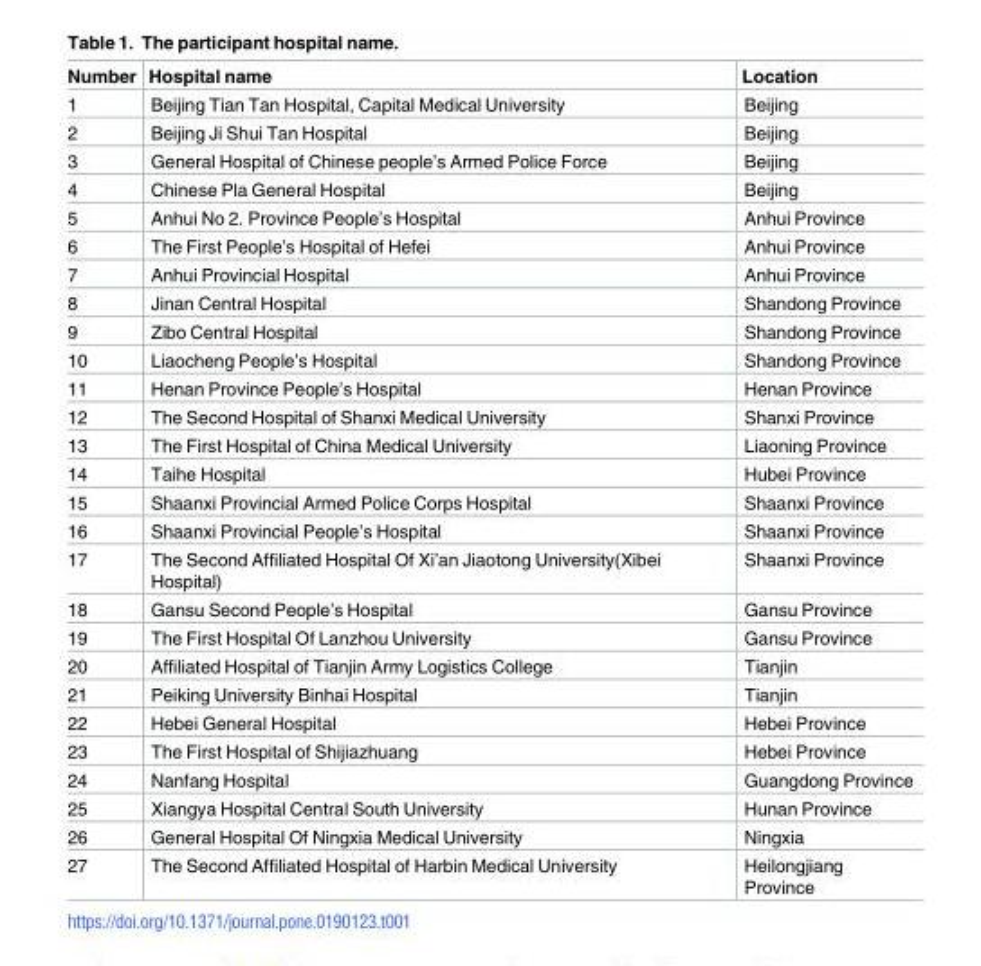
<table><thead><tr><td>Number</td><td>Hospital name</td><td>Location</td></tr></thead><tbody><tr><td>1</td><td>Beijing Tian Tan Hospital, Capital Medical University</td><td>Beijing</td></tr><tr><td>2</td><td>Beijing Ji Shui Tan Hospital</td><td>Beijing</td></tr><tr><td>3</td><td>General Hospital of Chinese people’s Armed Police Force</td><td>Beijing</td></tr><tr><td>4</td><td>Chinese Pla General Hospital</td><td>Beijing</td></tr><tr><td>5</td><td>Anhui No 2. Province People’s Hospital</td><td>Anhui Province</td></tr><tr><td>6</td><td>The First People’s Hospital of Hefei</td><td>Anhui Province</td></tr><tr><td>7</td><td>Anhui Provincial Hospital</td><td>Anhui Province</td></tr><tr><td>8</td><td>Jinan Central Hospital</td><td>Shandong Province</td></tr><tr><td>9</td><td>Zibo Central Hospital</td><td>Shandong Province</td></tr><tr><td>10</td><td>Liaocheng People’s Hospital</td><td>Shandong Province</td></tr><tr><td>11</td><td>Henan Province People’s Hospital</td><td>Henan Province</td></tr><tr><td>12</td><td>The Second Hospital of Shanxi Medical University</td><td>Shanxi Province</td></tr><tr><td>13</td><td>The First Hospital of China Medical University</td><td>Liaoning Province</td></tr><tr><td>14</td><td>Taihe Hospital</td><td>Hubei Province</td></tr><tr><td>15</td><td>Shaanxi Provincial Armed Police Corps Hospital</td><td>Shaanxi Province</td></tr><tr><td>16</td><td>Shaanxi Provincial People’s Hospital</td><td>Shaanxi Province</td></tr><tr><td>17</td><td>The Second Affiliated Hospital Of Xi’an Jiaotong University(Xibei Hospital)</td><td>Shaanxi Province</td></tr><tr><td>18</td><td>Gansu Second People’s Hospital</td><td>Gansu Province</td></tr><tr><td>19</td><td>The First Hospital Of Lanzhou University</td><td>Gansu Province</td></tr><tr><td>20</td><td>Affiliated Hospital of Tianjin Army Logistics College</td><td>Tianjin</td></tr><tr><td>21</td><td>Peiking University Binhai Hospital</td><td>Tianjin</td></tr><tr><td>22</td><td>Hebei General Hospital</td><td>Hebei Province</td></tr><tr><td>23</td><td>The First Hospital of Shijiazhuang</td><td>Hebei Province</td></tr><tr><td>24</td><td>Nanfang Hospital</td><td>Guangdong Province</td></tr><tr><td>25</td><td>Xiangya Hospital Central South University</td><td>Hunan Province</td></tr><tr><td>26</td><td>General Hospital Of Ningxia Medical University</td><td>Ningxia</td></tr><tr><td>27</td><td>The Second Affiliated Hospital of Harbin Medical University</td><td>Heilongjiang Province</td></tr></tbody></table>